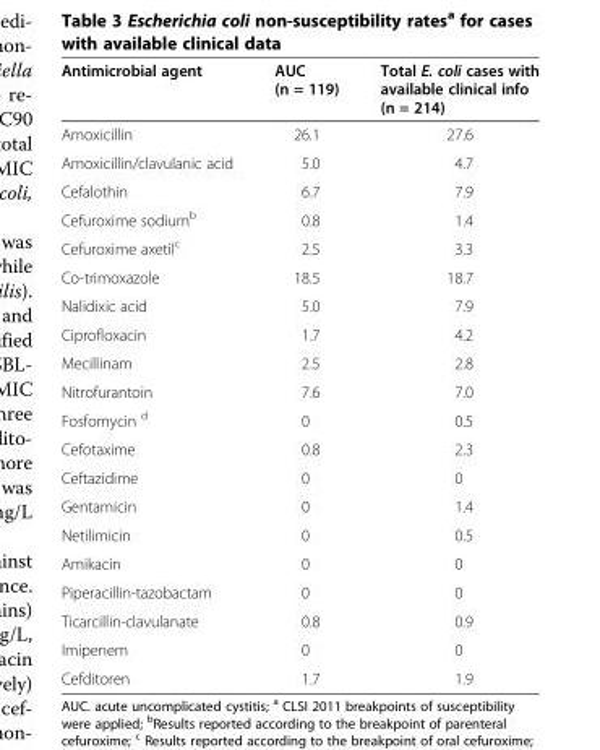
<table><thead><tr><td>Antimicrobial agent</td><td>AUC (n = 119)</td><td>Total E. coli cases with available clinical info (n = 214)</td></tr></thead><tbody><tr><td>Amoxicillin</td><td>26.1</td><td>27.6</td></tr><tr><td>Amoxicillin/clavulanic acid</td><td>5.0</td><td>4.7</td></tr><tr><td>Cefalothin</td><td>6.7</td><td>7.9</td></tr><tr><td>Cefuroxime sodium<sup>b</sup></td><td>0.8</td><td>1.4</td></tr><tr><td>Cefuroxime axetil<sup>c</sup></td><td>2.5</td><td>3.3</td></tr><tr><td>Co-trimoxazole</td><td>18.5</td><td>18.7</td></tr><tr><td>Nalidixic acid</td><td>5.0</td><td>7.9</td></tr><tr><td>Ciprofloxacin</td><td>1.7</td><td>4.2</td></tr><tr><td>Mecillinam</td><td>2.5</td><td>2.8</td></tr><tr><td>Nitrofurantoin</td><td>7.6</td><td>7.0</td></tr><tr><td>Fosfomycin <sup>d</sup></td><td>0</td><td>0.5</td></tr><tr><td>Cefotaxime</td><td>0.8</td><td>2.3</td></tr><tr><td>Ceftazidime</td><td>0</td><td>0</td></tr><tr><td>Gentamicin</td><td>0</td><td>1.4</td></tr><tr><td>Netilimicin</td><td>0</td><td>0.5</td></tr><tr><td>Amikacin</td><td>0</td><td>0</td></tr><tr><td>Piperacillin-tazobactam</td><td>0</td><td>0</td></tr><tr><td>Ticarcillin-clavulanate</td><td>0.8</td><td>0.9</td></tr><tr><td>Imipenem</td><td>0</td><td>0</td></tr><tr><td>Cefditoren</td><td>1.7</td><td>1.9</td></tr></tbody></table>